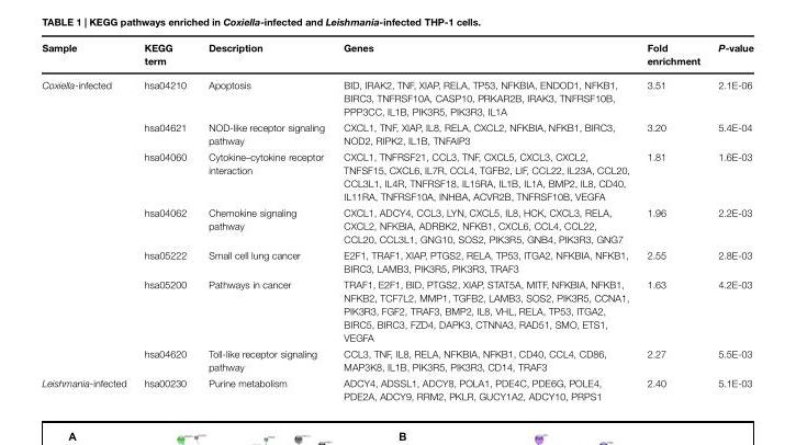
<table><thead><tr><td>Sample</td><td>KEGG term</td><td>Description</td><td>Genes</td><td>Fold enrichment</td><td>P-value</td></tr></thead><tbody><tr><td rowspan="7">Coxiella-infected</td><td>hsa04210</td><td>Apoptosis</td><td>BID, IRAK2, TNF, XIAP, RELA, TP53, NFKBIA, ENDOD1, NFKB1, BIRC3, TNFRSF10A, CASP10, PRKAR2B, IRAK3, TNFRSF10B, PPP3CC, IL1B, PIK3R5, PIK3R3, IL1A</td><td>3.51</td><td>2.1E-06</td></tr><tr><td>hsa04621</td><td>NOD-like receptor signaling pathway</td><td>CXCL1, TNF, XIAP, IL8, RELA, CXCL2, NFKBIA, NFKB1, BIRC3, NOD2, RIPK2, IL1B, TNFAIP3</td><td>3.20</td><td>5.4E-04</td></tr><tr><td>hsa04060</td><td>Cytokine–cytokine receptor interaction</td><td>CXCL1, TNFRSF21, CCL3, TNF, CXCL5, CXCL3, CXCL2, TNFSF15, CXCL6, IL7R, CCL4, TGFB2, LIF, CCL22, IL23A, CCL20, CCL3L1, IL4R, TNFRSF18, IL15RA, IL1B, IL1A, BMP2, IL8, CD40, IL11RA, TNFRSF10A, INHBA, ACVR2B, TNFRSF10B, VEGFA</td><td>1.81</td><td>1.6E-03</td></tr><tr><td>hsa04062</td><td>Chemokine signaling pathway</td><td>CXCL1, ADCY4, CCL3, LYN, CXCL5, IL8, HCK, CXCL3, RELA, CXCL2, NFKBIA, ADRBK2, NFKB1, CXCL6, CCL4, CCL22, CCL20, CCL3L1, GNG10, SOS2, PIK3R5, GNB4, PIK3R3, GNG7</td><td>1.96</td><td>2.2E-03</td></tr><tr><td>hsa05222</td><td>Small cell lung cancer</td><td>E2F1, TRAF1, XIAP, PTGS2, RELA, TP53, ITGA2, NFKBIA, NFKB1, BIRC3, LAMB3, PIK3R5, PIK3R3, TRAF3</td><td>2.55</td><td>2.8E-03</td></tr><tr><td>hsa05200</td><td>Pathways in cancer</td><td>TRAF1, E2F1, BID, PTGS2, XIAP, STAT5A, MITF, NFKBIA, NFKB1, NFKB2, TCF7L2, MMP1, TGFB2, LAMB3, SOS2, PIK3R5, CCNA1, PIK3R3, FGF2, TRAF3, BMP2, IL8, VHL, RELA, TP53, ITGA2, BIRC5, BIRC3, FZD4, DAPK3, CTNNA3, RAD51, SMO, ETS1, VEGFA</td><td>1.63</td><td>4.2E-03</td></tr><tr><td>hsa04620</td><td>Toll-like receptor signaling pathway</td><td>CCL3, TNF, IL8, RELA, NFKBIA, NFKB1, CD40, CCL4, CD86, MAP3K8, IL1B, PIK3R5, PIK3R3, CD14, TRAF3</td><td>2.27</td><td>5.5E-03</td></tr><tr><td>Leishmania-infected</td><td>hsa00230</td><td>Purine metabolism</td><td>ADCY4, ADSSL1, ADCY8, POLA1, PDE4C, PDE6G, POLE4, PDE2A, ADCY9, RRM2, PKLR, GUCY1A2, ADCY10, PRPS1</td><td>2.40</td><td>5.1E-03</td></tr></tbody></table>